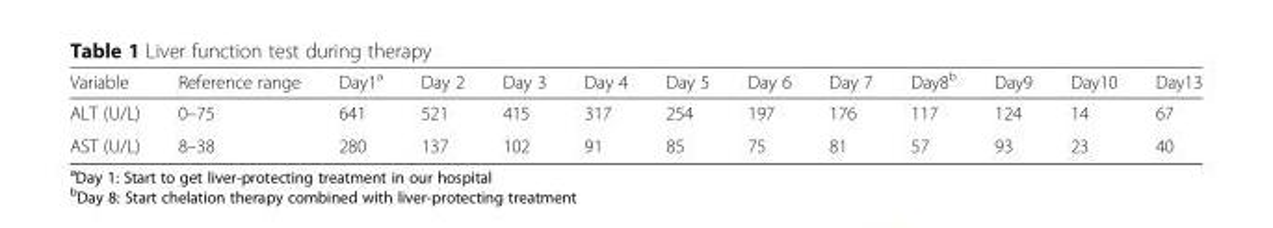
<table><thead><tr><td>Variable</td><td>Reference range</td><td>Day1<sup>a</sup></td><td>Day 2</td><td>Day 3</td><td>Day 4</td><td>Day 5</td><td>Day 6</td><td>Day 7</td><td>Day8<sup>b</sup></td><td>Day9</td><td>Day10</td><td>Day13</td></tr></thead><tbody><tr><td>ALT (U/L)</td><td>0–75</td><td>641</td><td>521</td><td>415</td><td>317</td><td>254</td><td>197</td><td>176</td><td>117</td><td>124</td><td>14</td><td>67</td></tr><tr><td>AST (U/L)</td><td>8–38</td><td>280</td><td>137</td><td>102</td><td>91</td><td>85</td><td>75</td><td>81</td><td>57</td><td>93</td><td>23</td><td>40</td></tr></tbody></table>